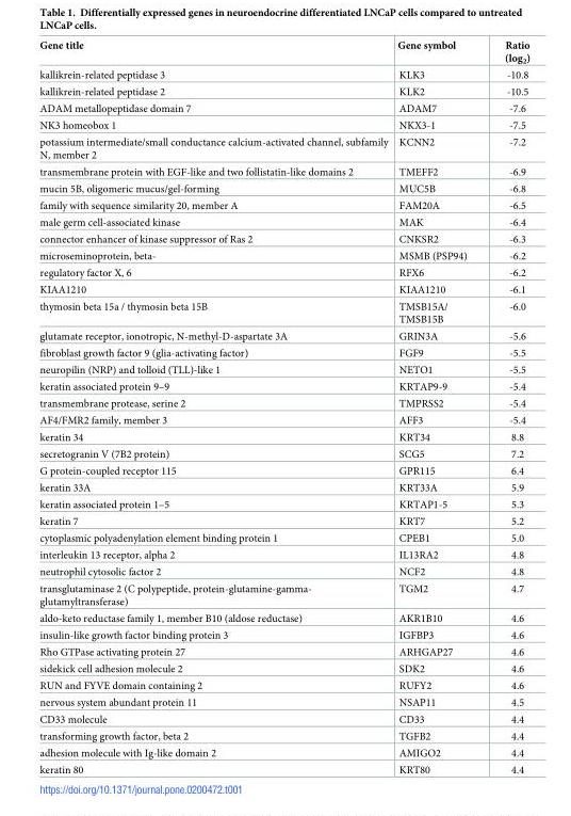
<table><thead><tr><td>Gene title</td><td>Gene symbol</td><td>Ratio (log<sub>2</sub>)</td></tr></thead><tbody><tr><td>kallikrein-related peptidase 3</td><td>KLK3</td><td>-10.8</td></tr><tr><td>kallikrein-related peptidase 2</td><td>KLK2</td><td>-10.5</td></tr><tr><td>ADAM metallopeptidase domain 7</td><td>ADAM7</td><td>-7.6</td></tr><tr><td>NK3 homeobox 1</td><td>NKX3-1</td><td>-7.5</td></tr><tr><td>potassium intermediate/small conductance calcium-activated channel, subfamily N, member 2</td><td>KCNN2</td><td>-7.2</td></tr><tr><td>transmembrane protein with EGF-like and two follistatin-like domains 2</td><td>TMEFF2</td><td>-6.9</td></tr><tr><td>mucin 5B, oligomeric mucus/gel-forming</td><td>MUC5B</td><td>-6.8</td></tr><tr><td>family with sequence similarity 20, member A</td><td>FAM20A</td><td>-6.5</td></tr><tr><td>male germ cell-associated kinase</td><td>MAK</td><td>-6.4</td></tr><tr><td>connector enhancer of kinase suppressor of Ras 2</td><td>CNKSR2</td><td>-6.3</td></tr><tr><td>microseminoprotein, beta-</td><td>MSMB (PSP94)</td><td>-6.2</td></tr><tr><td>regulatory factor X, 6</td><td>RFX6</td><td>-6.2</td></tr><tr><td>KIAA1210</td><td>KIAA1210</td><td>-6.1</td></tr><tr><td>thymosin beta 15a / thymosin beta 15B</td><td>TMSB15A/ TMSB15B</td><td>-6.0</td></tr><tr><td>glutamate receptor, ionotropic, N-methyl-D-aspartate 3A</td><td>GRIN3A</td><td>-5.6</td></tr><tr><td>fibroblast growth factor 9 (glia-activating factor)</td><td>FGF9</td><td>-5.5</td></tr><tr><td>neuropilin (NRP) and tolloid (TLL)-like 1</td><td>NETO1</td><td>-5.5</td></tr><tr><td>keratin associated protein 9–9</td><td>KRTAP9-9</td><td>-5.4</td></tr><tr><td>transmembrane protease, serine 2</td><td>TMPRSS2</td><td>-5.4</td></tr><tr><td>AF4/FMR2 family, member 3</td><td>AFF3</td><td>-5.4</td></tr><tr><td>keratin 34</td><td>KRT34</td><td>8.8</td></tr><tr><td>secretogranin V (7B2 protein)</td><td>SCG5</td><td>7.2</td></tr><tr><td>G protein-coupled receptor 115</td><td>GPR115</td><td>6.4</td></tr><tr><td>keratin 33A</td><td>KRT33A</td><td>5.9</td></tr><tr><td>keratin associated protein 1–5</td><td>KRTAP1-5</td><td>5.3</td></tr><tr><td>keratin 7</td><td>KRT7</td><td>5.2</td></tr><tr><td>cytoplasmic polyadenylation element binding protein 1</td><td>CPEB1</td><td>5.0</td></tr><tr><td>interleukin 13 receptor, alpha 2</td><td>IL13RA2</td><td>4.8</td></tr><tr><td>neutrophil cytosolic factor 2</td><td>NCF2</td><td>4.8</td></tr><tr><td>transglutaminase 2 (C polypeptide, protein-glutamine-gamma- glutamyltransferase)</td><td>TGM2</td><td>4.7</td></tr><tr><td>aldo-keto reductase family 1, member B10 (aldose reductase)</td><td>AKR1B10</td><td>4.6</td></tr><tr><td>insulin-like growth factor binding protein 3</td><td>IGFBP3</td><td>4.6</td></tr><tr><td>Rho GTPase activating protein 27</td><td>ARHGAP27</td><td>4.6</td></tr><tr><td>sidekick cell adhesion molecule 2</td><td>SDK2</td><td>4.6</td></tr><tr><td>RUN and FYVE domain containing 2</td><td>RUFY2</td><td>4.6</td></tr><tr><td>nervous system abundant protein 11</td><td>NSAP11</td><td>4.5</td></tr><tr><td>CD33 molecule</td><td>CD33</td><td>4.4</td></tr><tr><td>transforming growth factor, beta 2</td><td>TGFB2</td><td>4.4</td></tr><tr><td>adhesion molecule with Ig-like domain 2</td><td>AMIGO2</td><td>4.4</td></tr><tr><td>keratin 80</td><td>KRT80</td><td>4.4</td></tr></tbody></table>